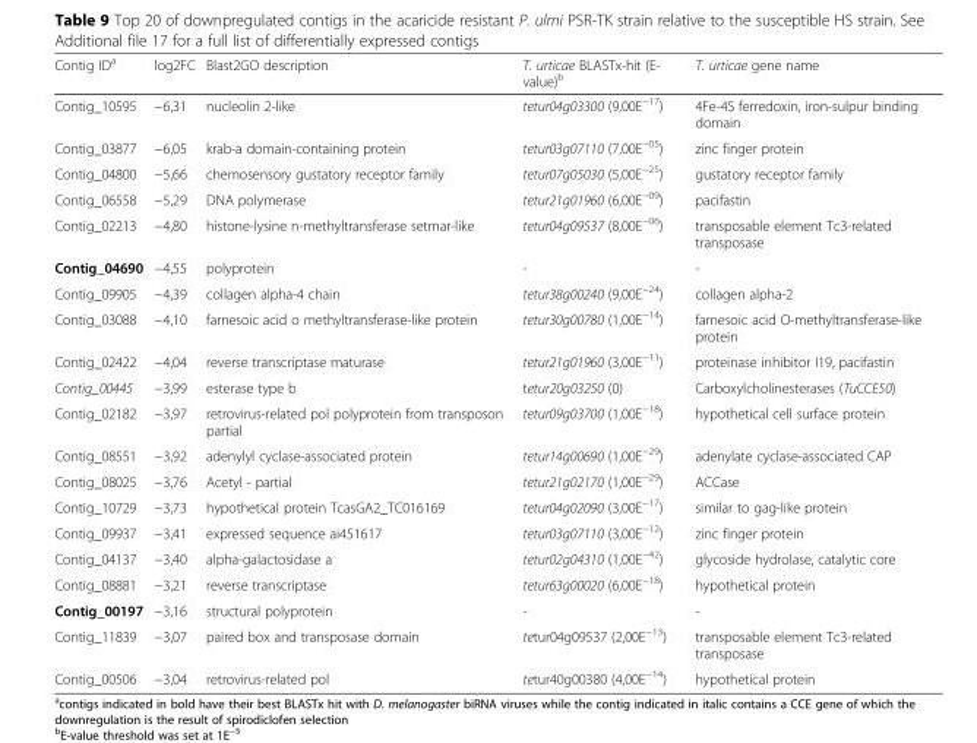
<table><thead><tr><td>Contig ID<sup>a</sup></td><td>log2FC</td><td>Blast2GO description</td><td>T. urticae BLASTx-hit (E- value)<sup>b</sup></td><td>T. urticae gene name</td></tr></thead><tbody><tr><td>Contig_10595</td><td>−6,31</td><td>nucleolin 2-like</td><td>tetur04g03300 (9,00E<sup>−17</sup>)</td><td>4Fe-4S ferredoxin, iron-sulpur binding domain</td></tr><tr><td>Contig_03877</td><td>−6,05</td><td>krab-a domain-containing protein</td><td>tetur03g07110 (7,00E<sup>−05</sup>)</td><td>zinc finger protein</td></tr><tr><td>Contig_04800</td><td>−5,66</td><td>chemosensory gustatory receptor family</td><td>tetur07g05030 (5,00E<sup>−25</sup>)</td><td>gustatory receptor family</td></tr><tr><td>Contig_06558</td><td>−5,29</td><td>DNA polymerase</td><td>tetur21g01960 (6,00E<sup>−09</sup>)</td><td>pacifastin</td></tr><tr><td>Contig_02213</td><td>−4,80</td><td>histone-lysine n-methyltransferase setmar-like</td><td>tetur04g09537 (8,00E<sup>−06</sup>)</td><td>transposable element Tc3-related transposase</td></tr><tr><td>Contig_04690</td><td>−4,55</td><td>polyprotein</td><td>-</td><td>-</td></tr><tr><td>Contig_09905</td><td>−4,39</td><td>collagen alpha-4 chain</td><td>tetur38g00240 (9,00E<sup>−24</sup>)</td><td>collagen alpha-2</td></tr><tr><td>Contig_03088</td><td>−4,10</td><td>farnesoic acid o methyltransferase-like protein</td><td>tetur30g00780 (1,00E<sup>−14</sup>)</td><td>farnesoic acid O-methyltransferase-like protein</td></tr><tr><td>Contig_02422</td><td>−4,04</td><td>reverse transcriptase maturase</td><td>tetur21g01960 (3,00E<sup>−11</sup>)</td><td>proteinase inhibitor I19, pacifastin</td></tr><tr><td>Contig_00445</td><td>−3,99</td><td>esterase type b</td><td>tetur20g03250 (0)</td><td>Carboxylcholinesterases (TuCCE50)</td></tr><tr><td>Contig_02182</td><td>−3,97</td><td>retrovirus-related pol polyprotein from transposon partial</td><td>tetur09g03700 (1,00E<sup>−18</sup>)</td><td>hypothetical cell surface protein</td></tr><tr><td>Contig_08551</td><td>−3,92</td><td>adenylyl cyclase-associated protein</td><td>tetur14g00690 (1,00E<sup>−29</sup>)</td><td>adenylate cyclase-associated CAP</td></tr><tr><td>Contig_08025</td><td>−3,76</td><td>Acetyl - partial</td><td>tetur21g02170 (1,00E<sup>−29</sup>)</td><td>ACCase</td></tr><tr><td>Contig_10729</td><td>−3,73</td><td>hypothetical protein TcasGA2_TC016169</td><td>tetur04g02090 (3,00E<sup>−17</sup>)</td><td>similar to gag-like protein</td></tr><tr><td>Contig_09937</td><td>−3,41</td><td>expressed sequence ai451617</td><td>tetur03g07110 (3,00E<sup>−12</sup>)</td><td>zinc finger protein</td></tr><tr><td>Contig_04137</td><td>−3,40</td><td>alpha-galactosidase a</td><td>tetur02g04310 (1,00E<sup>−42</sup>)</td><td>glycoside hydrolase, catalytic core</td></tr><tr><td>Contig_08881</td><td>−3,21</td><td>reverse transcriptase</td><td>tetur63g00020 (6,00E<sup>−18</sup>)</td><td>hypothetical protein</td></tr><tr><td>Contig_00197</td><td>−3,16</td><td>structural polyprotein</td><td>-</td><td>-</td></tr><tr><td>Contig_11839</td><td>−3,07</td><td>paired box and transposase domain</td><td>tetur04g09537 (2,00E<sup>−13</sup>)</td><td>transposable element Tc3-related transposase</td></tr><tr><td>Contig_00506</td><td>−3,04</td><td>retrovirus-related pol</td><td>tetur40g00380 (4,00E<sup>−14</sup>)</td><td>hypothetical protein</td></tr></tbody></table>